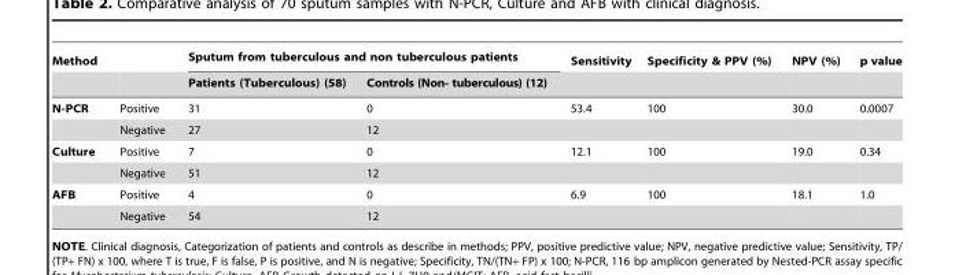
<table><thead><tr><td colspan="2">Method</td><td colspan="2">Sputum from tuberculous and non tuberculous patients</td><td rowspan="2">Sensitivity</td><td rowspan="2">Specificity &amp; PPV (%)</td><td rowspan="2">NPV (%)</td><td rowspan="2">p value</td></tr><tr><td></td><td></td><td>Patients (Tuberculous) (58)</td><td>Controls (Non- tuberculous) (12)</td></tr></thead><tbody><tr><td rowspan="2">N-PCR</td><td>Positive</td><td>31</td><td>0</td><td>53.4</td><td>100</td><td>30.0</td><td>0.0007</td></tr><tr><td>Negative</td><td>27</td><td>12</td><td></td><td></td><td></td><td></td></tr><tr><td rowspan="2">Culture</td><td>Positive</td><td>7</td><td>0</td><td>12.1</td><td>100</td><td>19.0</td><td>0.34</td></tr><tr><td>Negative</td><td>51</td><td>12</td><td></td><td></td><td></td><td></td></tr><tr><td rowspan="2">AFB</td><td>Positive</td><td>4</td><td>0</td><td>6.9</td><td>100</td><td>18.1</td><td>1.0</td></tr><tr><td>Negative</td><td>54</td><td>12</td><td></td><td></td><td></td><td></td></tr></tbody></table>